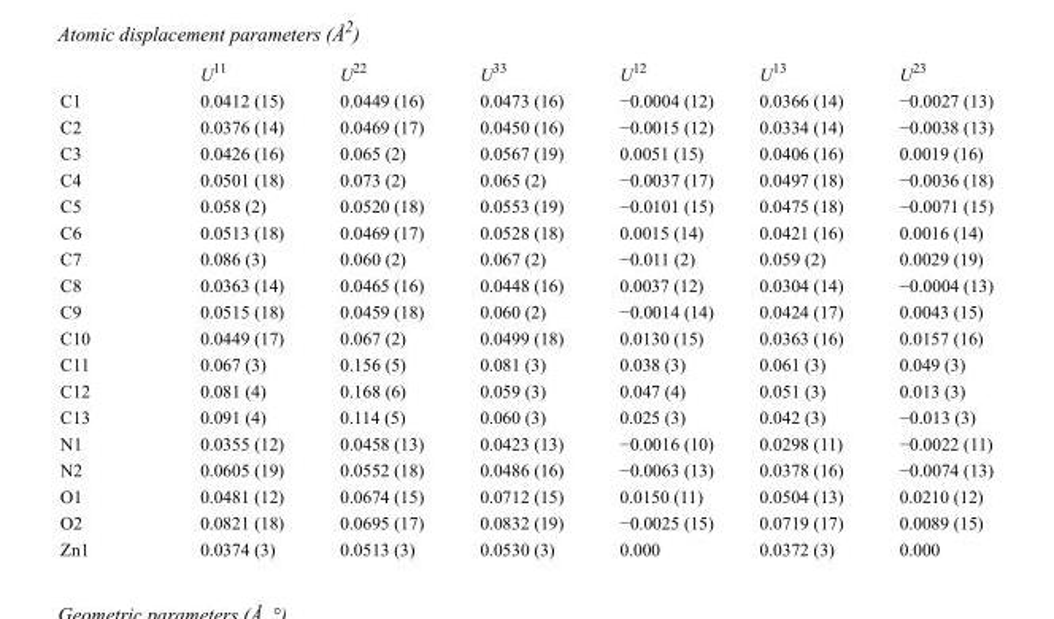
<table><thead><tr><td></td><td>U<sup>11</sup></td><td>U<sup>22</sup></td><td>U<sup>33</sup></td><td>U<sup>12</sup></td><td>U<sup>13</sup></td><td>U<sup>23</sup></td></tr></thead><tbody><tr><td>C1</td><td>0.0412 (15)</td><td>0.0449 (16)</td><td>0.0473 (16)</td><td>−0.0004 (12)</td><td>0.0366 (14)</td><td>−0.0027 (13)</td></tr><tr><td>C2</td><td>0.0376 (14)</td><td>0.0469 (17)</td><td>0.0450 (16)</td><td>−0.0015 (12)</td><td>0.0334 (14)</td><td>−0.0038 (13)</td></tr><tr><td>C3</td><td>0.0426 (16)</td><td>0.065 (2)</td><td>0.0567 (19)</td><td>0.0051 (15)</td><td>0.0406 (16)</td><td>0.0019 (16)</td></tr><tr><td>C4</td><td>0.0501 (18)</td><td>0.073 (2)</td><td>0.065 (2)</td><td>−0.0037 (17)</td><td>0.0497 (18)</td><td>−0.0036 (18)</td></tr><tr><td>C5</td><td>0.058 (2)</td><td>0.0520 (18)</td><td>0.0553 (19)</td><td>−0.0101 (15)</td><td>0.0475 (18)</td><td>−0.0071 (15)</td></tr><tr><td>C6</td><td>0.0513 (18)</td><td>0.0469 (17)</td><td>0.0528 (18)</td><td>0.0015 (14)</td><td>0.0421 (16)</td><td>0.0016 (14)</td></tr><tr><td>C7</td><td>0.086 (3)</td><td>0.060 (2)</td><td>0.067 (2)</td><td>−0.011 (2)</td><td>0.059 (2)</td><td>0.0029 (19)</td></tr><tr><td>C8</td><td>0.0363 (14)</td><td>0.0465 (16)</td><td>0.0448 (16)</td><td>0.0037 (12)</td><td>0.0304 (14)</td><td>−0.0004 (13)</td></tr><tr><td>C9</td><td>0.0515 (18)</td><td>0.0459 (18)</td><td>0.060 (2)</td><td>−0.0014 (14)</td><td>0.0424 (17)</td><td>0.0043 (15)</td></tr><tr><td>C10</td><td>0.0449 (17)</td><td>0.067 (2)</td><td>0.0499 (18)</td><td>0.0130 (15)</td><td>0.0363 (16)</td><td>0.0157 (16)</td></tr><tr><td>C11</td><td>0.067 (3)</td><td>0.156 (5)</td><td>0.081 (3)</td><td>0.038 (3)</td><td>0.061 (3)</td><td>0.049 (3)</td></tr><tr><td>C12</td><td>0.081 (4)</td><td>0.168 (6)</td><td>0.059 (3)</td><td>0.047 (4)</td><td>0.051 (3)</td><td>0.013 (3)</td></tr><tr><td>C13</td><td>0.091 (4)</td><td>0.114 (5)</td><td>0.060 (3)</td><td>0.025 (3)</td><td>0.042 (3)</td><td>−0.013 (3)</td></tr><tr><td>N1</td><td>0.0355 (12)</td><td>0.0458 (13)</td><td>0.0423 (13)</td><td>−0.0016 (10)</td><td>0.0298 (11)</td><td>−0.0022 (11)</td></tr><tr><td>N2</td><td>0.0605 (19)</td><td>0.0552 (18)</td><td>0.0486 (16)</td><td>−0.0063 (13)</td><td>0.0378 (16)</td><td>−0.0074 (13)</td></tr><tr><td>O1</td><td>0.0481 (12)</td><td>0.0674 (15)</td><td>0.0712 (15)</td><td>0.0150 (11)</td><td>0.0504 (13)</td><td>0.0210 (12)</td></tr><tr><td>O2</td><td>0.0821 (18)</td><td>0.0695 (17)</td><td>0.0832 (19)</td><td>−0.0025 (15)</td><td>0.0719 (17)</td><td>0.0089 (15)</td></tr><tr><td>Zn1</td><td>0.0374 (3)</td><td>0.0513 (3)</td><td>0.0530 (3)</td><td>0.000</td><td>0.0372 (3)</td><td>0.000</td></tr></tbody></table>